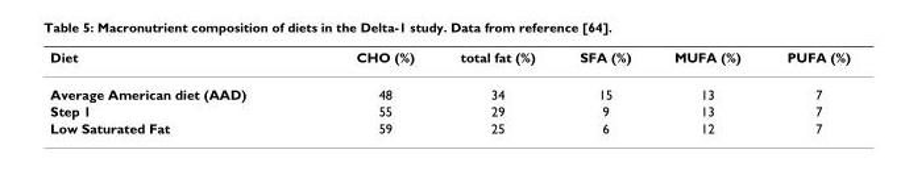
<table><thead><tr><td>Diet</td><td>CHO (%)</td><td>total fat (%)</td><td>SFA (%)</td><td>MUFA (%)</td><td>PUFA (%)</td></tr></thead><tbody><tr><td>Average American diet (AAD)</td><td>48</td><td>34</td><td>15</td><td>13</td><td>7</td></tr><tr><td>Step 1</td><td>55</td><td>29</td><td>9</td><td>13</td><td>7</td></tr><tr><td>Low Saturated Fat</td><td>59</td><td>25</td><td>6</td><td>12</td><td>7</td></tr></tbody></table>